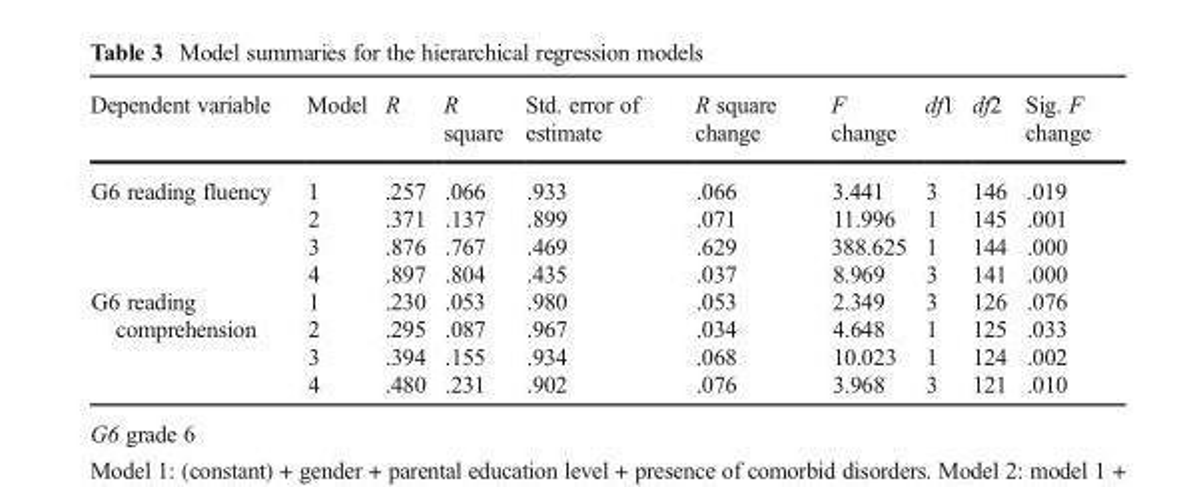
<table><thead><tr><td>Dependent variable</td><td>Model</td><td>R</td><td>R square</td><td>Std. error of estimate</td><td>R square change</td><td>F change</td><td>df1</td><td>df2</td><td>Sig. F change</td></tr></thead><tbody><tr><td rowspan="4">G6 reading fluency</td><td>1</td><td>.257</td><td>.066</td><td>.933</td><td>.066</td><td>3.441</td><td>3</td><td>146</td><td>.019</td></tr><tr><td>2</td><td>.371</td><td>.137</td><td>.899</td><td>.071</td><td>11.996</td><td>1</td><td>145</td><td>.001</td></tr><tr><td>3</td><td>.876</td><td>.767</td><td>.469</td><td>.629</td><td>388.625</td><td>1</td><td>144</td><td>.000</td></tr><tr><td>4</td><td>.897</td><td>.804</td><td>.435</td><td>.037</td><td>8.969</td><td>3</td><td>141</td><td>.000</td></tr><tr><td rowspan="4">G6 reading comprehension</td><td>1</td><td>.230</td><td>.053</td><td>.980</td><td>.053</td><td>2.349</td><td>3</td><td>126</td><td>.076</td></tr><tr><td>2</td><td>.295</td><td>.087</td><td>.967</td><td>.034</td><td>4.648</td><td>1</td><td>125</td><td>.033</td></tr><tr><td>3</td><td>.394</td><td>.155</td><td>.934</td><td>.068</td><td>10.023</td><td>1</td><td>124</td><td>.002</td></tr><tr><td>4</td><td>.480</td><td>.231</td><td>.902</td><td>.076</td><td>3.968</td><td>3</td><td>121</td><td>.010</td></tr></tbody></table>